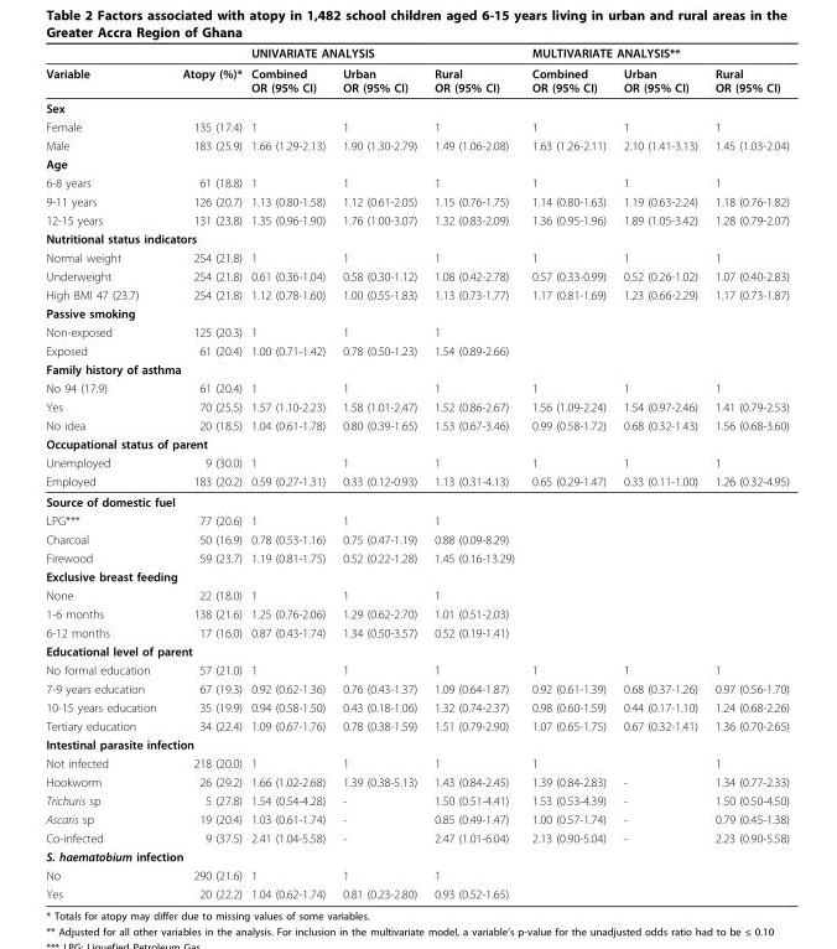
<table><thead><tr><td rowspan="2">Variable</td><td rowspan="2">Atopy (%)*</td><td colspan="3">UNIVARIATE ANALYSIS</td><td colspan="3">MULTIVARIATE ANALYSIS**</td></tr><tr><td>Combined OR (95% CI)</td><td>Urban OR (95% CI)</td><td>Rural OR (95% CI)</td><td>Combined OR (95% CI)</td><td>Urban OR (95% CI)</td><td>Rural OR (95% CI)</td></tr></thead><tbody><tr><td colspan="8">Sex</td></tr><tr><td>Female</td><td>135 (17.4)</td><td>1</td><td>1</td><td>1</td><td>1</td><td>1</td><td>1</td></tr><tr><td>Male</td><td>183 (25.9)</td><td>1.66 (1.29-2.13)</td><td>1.90 (1.30-2.79)</td><td>1.49 (1.06-2.08)</td><td>1.63 (1.26-2.11)</td><td>2.10 (1.41-3.13)</td><td>1.45 (1.03-2.04)</td></tr><tr><td colspan="8">Age</td></tr><tr><td>6-8 years</td><td>61 (18.8)</td><td>1</td><td>1</td><td>1</td><td>1</td><td>1</td><td>1</td></tr><tr><td>9-11 years</td><td>126 (20.7)</td><td>1.13 (0.80-1.58)</td><td>1.12 (0.61-2.05)</td><td>1.15 (0.76-1.75)</td><td>1.14 (0.80-1.63)</td><td>1.19 (0.63-2.24)</td><td>1.18 (0.76-1.82)</td></tr><tr><td>12-15 years</td><td>131 (23.8)</td><td>1.35 (0.96-1.90)</td><td>1.76 (1.00-3.07)</td><td>1.32 (0.83-2.09)</td><td>1.36 (0.95-1.96)</td><td>1.89 (1.05-3.42)</td><td>1.28 (0.79-2.07)</td></tr><tr><td colspan="8">Nutritional status indicators</td></tr><tr><td>Normal weight</td><td>254 (21.8)</td><td>1</td><td>1</td><td>1</td><td>1</td><td>1</td><td>1</td></tr><tr><td>Underweight</td><td>254 (21.8)</td><td>0.61 (0.36-1.04)</td><td>0.58 (0.30-1.12)</td><td>1.08 (0.42-2.78)</td><td>0.57 (0.33-0.99)</td><td>0.52 (0.26-1.02)</td><td>1.07 (0.40-2.83)</td></tr><tr><td>High BMI 47 (23.7)</td><td>254 (21.8)</td><td>1.12 (0.78-1.60)</td><td>1.00 (0.55-1.83)</td><td>1.13 (0.73-1.77)</td><td>1.17 (0.81-1.69)</td><td>1.23 (0.66-2.29)</td><td>1.17 (0.73-1.87)</td></tr><tr><td colspan="8">Passive smoking</td></tr><tr><td>Non-exposed</td><td>125 (20.3)</td><td>1</td><td>1</td><td>1</td><td></td><td></td><td></td></tr><tr><td>Exposed</td><td>61 (20.4)</td><td>1.00 (0.71-1.42)</td><td>0.78 (0.50-1.23)</td><td>1.54 (0.89-2.66)</td><td></td><td></td><td></td></tr><tr><td colspan="8">Family history of asthma</td></tr><tr><td>No 94 (17.9)</td><td>61 (20.4)</td><td>1</td><td>1</td><td>1</td><td>1</td><td>1</td><td>1</td></tr><tr><td>Yes</td><td>70 (25.5)</td><td>1.57 (1.10-2.23)</td><td>1.58 (1.01-2.47)</td><td>1.52 (0.86-2.67)</td><td>1.56 (1.09-2.24)</td><td>1.54 (0.97-2.46)</td><td>1.41 (0.79-2.53)</td></tr><tr><td>No idea</td><td>20 (18.5)</td><td>1.04 (0.61-1.78)</td><td>0.80 (0.39-1.65)</td><td>1.53 (0.67-3.46)</td><td>0.99 (0.58-1.72)</td><td>0.68 (0.32-1.43)</td><td>1.56 (0.68-3.60)</td></tr><tr><td colspan="8">Occupational status of parent</td></tr><tr><td>Unemployed</td><td>9 (30.0)</td><td>1</td><td>1</td><td>1</td><td>1</td><td>1</td><td>1</td></tr><tr><td>Employed</td><td>183 (20.2)</td><td>0.59 (0.27-1.31)</td><td>0.33 (0.12-0.93)</td><td>1.13 (0.31-4.13)</td><td>0.65 (0.29-1.47)</td><td>0.33 (0.11-1.00)</td><td>1.26 (0.32-4.95)</td></tr><tr><td colspan="8">Source of domestic fuel</td></tr><tr><td>LPG***</td><td>77 (20.6)</td><td>1</td><td>1</td><td>1</td><td></td><td></td><td></td></tr><tr><td>Charcoal</td><td>50 (16.9)</td><td>0.78 (0.53-1.16)</td><td>0.75 (0.47-1.19)</td><td>0.88 (0.09-8.29)</td><td></td><td></td><td></td></tr><tr><td>Firewood</td><td>59 (23.7)</td><td>1.19 (0.81-1.75)</td><td>0.52 (0.22-1.28)</td><td>1.45 (0.16-13.29)</td><td></td><td></td><td></td></tr><tr><td colspan="8">Exclusive breast feeding</td></tr><tr><td>None</td><td>22 (18.0)</td><td>1</td><td>1</td><td>1</td><td></td><td></td><td></td></tr><tr><td>1-6 months</td><td>138 (21.6)</td><td>1.25 (0.76-2.06)</td><td>1.29 (0.62-2.70)</td><td>1.01 (0.51-2.03)</td><td></td><td></td><td></td></tr><tr><td>6-12 months</td><td>17 (16.0)</td><td>0.87 (0.43-1.74)</td><td>1.34 (0.50-3.57)</td><td>0.52 (0.19-1.41)</td><td></td><td></td><td></td></tr><tr><td colspan="8">Educational level of parent</td></tr><tr><td>No formal education</td><td>57 (21.0)</td><td>1</td><td>1</td><td>1</td><td>1</td><td>1</td><td>1</td></tr><tr><td>7-9 years education</td><td>67 (19.3)</td><td>0.92 (0.62-1.36)</td><td>0.76 (0.43-1.37)</td><td>1.09 (0.64-1.87)</td><td>0.92 (0.61-1.39)</td><td>0.68 (0.37-1.26)</td><td>0.97 (0.56-1.70)</td></tr><tr><td>10-15 years education</td><td>35 (19.9)</td><td>0.94 (0.58-1.50)</td><td>0.43 (0.18-1.06)</td><td>1.32 (0.74-2.37)</td><td>0.98 (0.60-1.59)</td><td>0.44 (0.17-1.10)</td><td>1.24 (0.68-2.26)</td></tr><tr><td>Tertiary education</td><td>34 (22.4)</td><td>1.09 (0.67-1.76)</td><td>0.78 (0.38-1.59)</td><td>1.51 (0.79-2.90)</td><td>1.07 (0.65-1.75)</td><td>0.67 (0.32-1.41)</td><td>1.36 (0.70-2.65)</td></tr><tr><td colspan="8">Intestinal parasite infection</td></tr><tr><td>Not infected</td><td>218 (20.0)</td><td>1</td><td>1</td><td>1</td><td>1</td><td></td><td>1</td></tr><tr><td>Hookworm</td><td>26 (29.2)</td><td>1.66 (1.02-2.68)</td><td>1.39 (0.38-5.13)</td><td>1.43 (0.84-2.45)</td><td>1.39 (0.84-2.83)</td><td>-</td><td>1.34 (0.77-2.33)</td></tr><tr><td>Trichuris sp</td><td>5 (27.8)</td><td>1.54 (0.54-4.28)</td><td>-</td><td>1.50 (0.51-4.41)</td><td>1.53 (0.53-4.39)</td><td>-</td><td>1.50 (0.50-4.50)</td></tr><tr><td>Ascaris sp</td><td>19 (20.4)</td><td>1.03 (0.61-1.74)</td><td>-</td><td>0.85 (0.49-1.47)</td><td>1.00 (0.57-1.74)</td><td>-</td><td>0.79 (0.45-1.38)</td></tr><tr><td>Co-infected</td><td>9 (37.5)</td><td>2.41 (1.04-5.58)</td><td>-</td><td>2.47 (1.01-6.04)</td><td>2.13 (0.90-5.04)</td><td>-</td><td>2.23 (0.90-5.58)</td></tr><tr><td colspan="8">S. haematobium infection</td></tr><tr><td>No</td><td>290 (21.6)</td><td>1</td><td>1</td><td>1</td><td></td><td></td><td></td></tr><tr><td>Yes</td><td>20 (22.2)</td><td>1.04 (0.62-1.74)</td><td>0.81 (0.23-2.80)</td><td>0.93 (0.52-1.65)</td><td></td><td></td><td></td></tr></tbody></table>